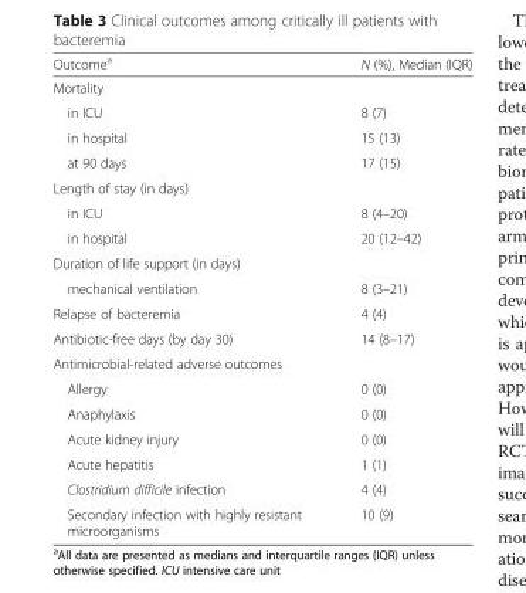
<table><thead><tr><td>Outcome<sup>a</sup></td><td>N (%), Median (IQR)</td></tr></thead><tbody><tr><td colspan="2">Mortality</td></tr><tr><td>in ICU</td><td>8 (7)</td></tr><tr><td>in hospital</td><td>15 (13)</td></tr><tr><td>at 90 days</td><td>17 (15)</td></tr><tr><td colspan="2">Length of stay (in days)</td></tr><tr><td>in ICU</td><td>8 (4–20)</td></tr><tr><td>in hospital</td><td>20 (12–42)</td></tr><tr><td colspan="2">Duration of life support (in days)</td></tr><tr><td>mechanical ventilation</td><td>8 (3–21)</td></tr><tr><td>Relapse of bacteremia</td><td>4 (4)</td></tr><tr><td>Antibiotic-free days (by day 30)</td><td>14 (8–17)</td></tr><tr><td colspan="2">Antimicrobial-related adverse outcomes</td></tr><tr><td>Allergy</td><td>0 (0)</td></tr><tr><td>Anaphylaxis</td><td>0 (0)</td></tr><tr><td>Acute kidney injury</td><td>0 (0)</td></tr><tr><td>Acute hepatitis</td><td>1 (1)</td></tr><tr><td>Clostridium difficile infection</td><td>4 (4)</td></tr><tr><td>Secondary infection with highly resistant microorganisms</td><td>10 (9)</td></tr></tbody></table>